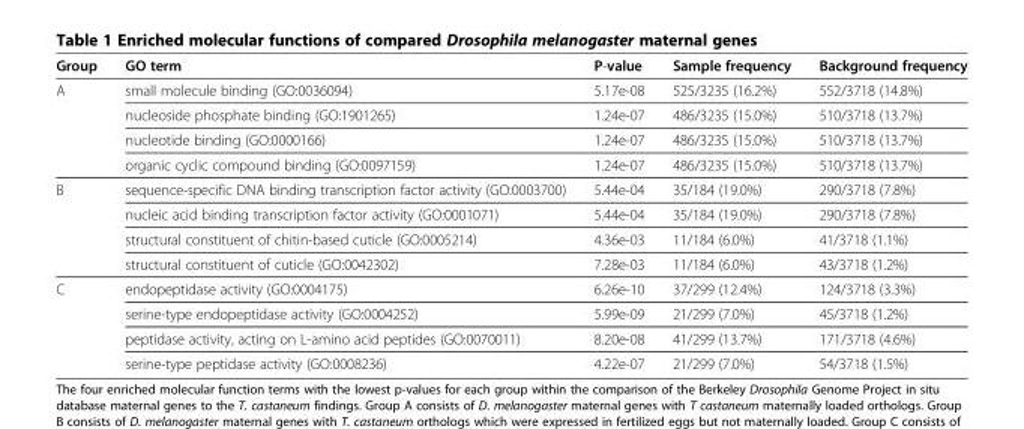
<table><thead><tr><td>Group</td><td>GO term</td><td>P-value</td><td>Sample frequency</td><td>Background frequency</td></tr></thead><tbody><tr><td rowspan="4">A</td><td>small molecule binding (GO:0036094)</td><td>5.17e-08</td><td>525/3235 (16.2%)</td><td>552/3718 (14.8%)</td></tr><tr><td>nucleoside phosphate binding (GO:1901265)</td><td>1.24e-07</td><td>486/3235 (15.0%)</td><td>510/3718 (13.7%)</td></tr><tr><td>nucleotide binding (GO:0000166)</td><td>1.24e-07</td><td>486/3235 (15.0%)</td><td>510/3718 (13.7%)</td></tr><tr><td>organic cyclic compound binding (GO:0097159)</td><td>1.24e-07</td><td>486/3235 (15.0%)</td><td>510/3718 (13.7%)</td></tr><tr><td rowspan="4">B</td><td>sequence-specific DNA binding transcription factor activity (GO:0003700)</td><td>5.44e-04</td><td>35/184 (19.0%)</td><td>290/3718 (7.8%)</td></tr><tr><td>nucleic acid binding transcription factor activity (GO:0001071)</td><td>5.44e-04</td><td>35/184 (19.0%)</td><td>290/3718 (7.8%)</td></tr><tr><td>structural constituent of chitin-based cuticle (GO:0005214)</td><td>4.36e-03</td><td>11/184 (6.0%)</td><td>41/3718 (1.1%)</td></tr><tr><td>structural constituent of cuticle (GO:0042302)</td><td>7.28e-03</td><td>11/184 (6.0%)</td><td>43/3718 (1.2%)</td></tr><tr><td rowspan="4">C</td><td>endopeptidase activity (GO:0004175)</td><td>6.26e-10</td><td>37/299 (12.4%)</td><td>124/3718 (3.3%)</td></tr><tr><td>serine-type endopeptidase activity (GO:0004252)</td><td>5.99e-09</td><td>21/299 (7.0%)</td><td>45/3718 (1.2%)</td></tr><tr><td>peptidase activity, acting on L-amino acid peptides (GO:0070011)</td><td>8.20e-08</td><td>41/299 (13.7%)</td><td>171/3718 (4.6%)</td></tr><tr><td>serine-type peptidase activity (GO:0008236)</td><td>4.22e-07</td><td>21/299 (7.0%)</td><td>54/3718 (1.5%)</td></tr></tbody></table>